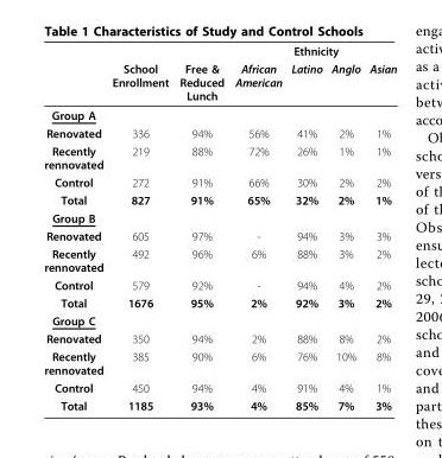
<table><thead><tr><td rowspan="2"></td><td rowspan="2">School Enrollment</td><td rowspan="2">Free &amp; Reduced Lunch</td><td colspan="4">Ethnicity</td></tr><tr><td>African American</td><td>Latino</td><td>Anglo</td><td>Asian</td></tr></thead><tbody><tr><td colspan="7">Group A</td></tr><tr><td>Renovated</td><td>336</td><td>94%</td><td>56%</td><td>41%</td><td>2%</td><td>1%</td></tr><tr><td>Recently rennovated</td><td>219</td><td>88%</td><td>72%</td><td>26%</td><td>1%</td><td>1%</td></tr><tr><td>Control</td><td>272</td><td>91%</td><td>66%</td><td>30%</td><td>2%</td><td>2%</td></tr><tr><td>Total</td><td>827</td><td>91%</td><td>65%</td><td>32%</td><td>2%</td><td>1%</td></tr><tr><td colspan="7">Group B</td></tr><tr><td>Renovated</td><td>605</td><td>97%</td><td>-</td><td>94%</td><td>3%</td><td>3%</td></tr><tr><td>Recently rennovated</td><td>492</td><td>96%</td><td>6%</td><td>88%</td><td>3%</td><td>2%</td></tr><tr><td>Control</td><td>579</td><td>92%</td><td>-</td><td>94%</td><td>4%</td><td>2%</td></tr><tr><td>Total</td><td>1676</td><td>95%</td><td>2%</td><td>92%</td><td>3%</td><td>2%</td></tr><tr><td colspan="7">Group C</td></tr><tr><td>Renovated</td><td>350</td><td>94%</td><td>2%</td><td>88%</td><td>8%</td><td>2%</td></tr><tr><td>Recently rennovated</td><td>385</td><td>90%</td><td>6%</td><td>76%</td><td>10%</td><td>8%</td></tr><tr><td>Control</td><td>450</td><td>94%</td><td>4%</td><td>91%</td><td>4%</td><td>1%</td></tr><tr><td>Total</td><td>1185</td><td>93%</td><td>4%</td><td>85%</td><td>7%</td><td>3%</td></tr></tbody></table>